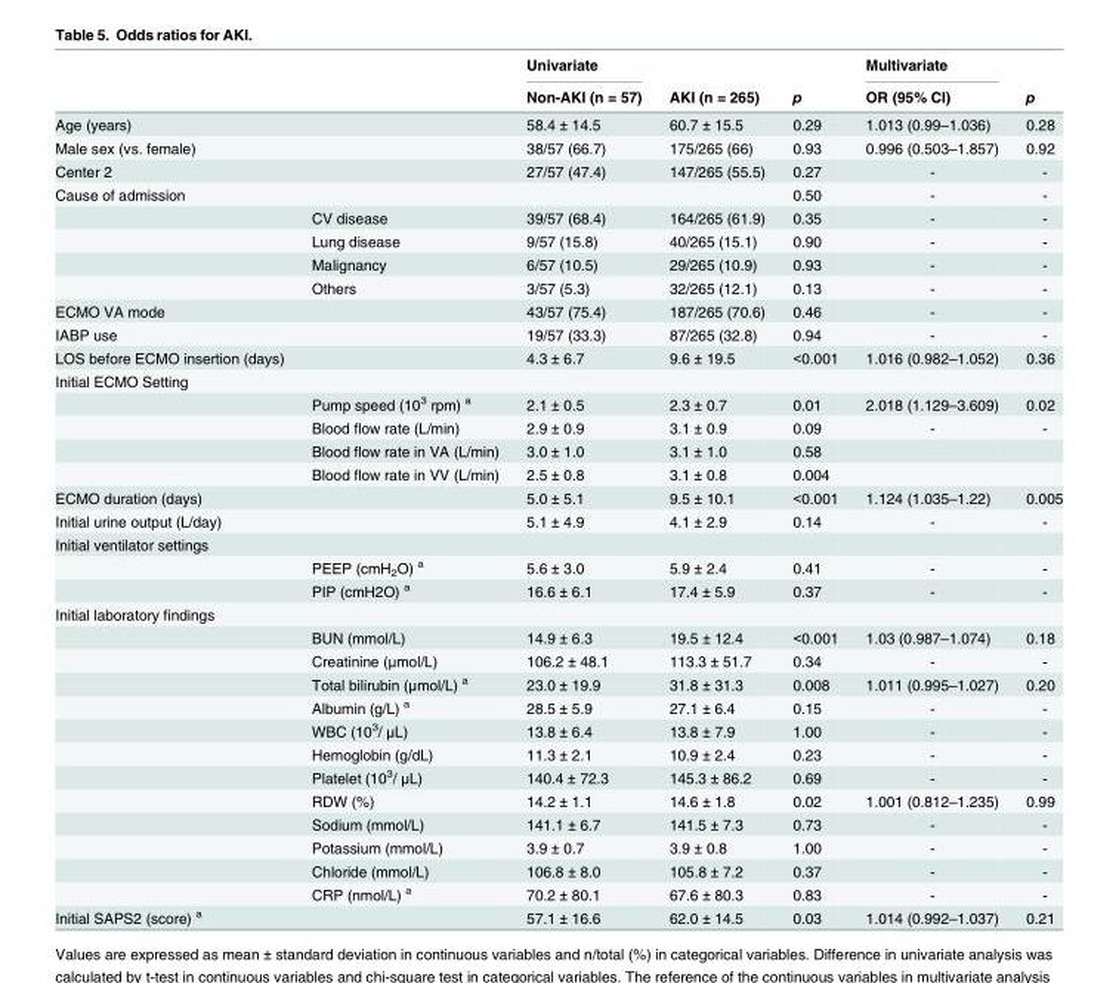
<table><thead><tr><td rowspan="2"></td><td rowspan="2"></td><td rowspan="2">Univariate Non-AKI (n = 57)</td><td rowspan="2">AKI (n = 265)</td><td rowspan="2">p</td><td rowspan="2">Multivariate OR (95% CI)</td><td rowspan="2">p</td></tr><tr></tr></thead><tbody><tr><td>Age (years)</td><td></td><td>58.4 ± 14.5</td><td>60.7 ± 15.5</td><td>0.29</td><td>1.013 (0.99–1.036)</td><td>0.28</td></tr><tr><td>Male sex (vs. female)</td><td></td><td>38/57 (66.7)</td><td>175/265 (66)</td><td>0.93</td><td>0.996 (0.503–1.857)</td><td>0.92</td></tr><tr><td>Center 2</td><td></td><td>27/57 (47.4)</td><td>147/265 (55.5)</td><td>0.27</td><td>-</td><td>-</td></tr><tr><td rowspan="5">Cause of admission</td><td></td><td></td><td></td><td>0.50</td><td>-</td><td>-</td></tr><tr><td>CV disease</td><td>39/57 (68.4)</td><td>164/265 (61.9)</td><td>0.35</td><td>-</td><td>-</td></tr><tr><td>Lung disease</td><td>9/57 (15.8)</td><td>40/265 (15.1)</td><td>0.90</td><td>-</td><td>-</td></tr><tr><td>Malignancy</td><td>6/57 (10.5)</td><td>29/265 (10.9)</td><td>0.93</td><td>-</td><td>-</td></tr><tr><td>Others</td><td>3/57 (5.3)</td><td>32/265 (12.1)</td><td>0.13</td><td>-</td><td>-</td></tr><tr><td>ECMO VA mode</td><td></td><td>43/57 (75.4)</td><td>187/265 (70.6)</td><td>0.46</td><td>-</td><td>-</td></tr><tr><td>IABP use</td><td></td><td>19/57 (33.3)</td><td>87/265 (32.8)</td><td>0.94</td><td>-</td><td>-</td></tr><tr><td>LOS before ECMO insertion (days)</td><td></td><td>4.3 ± 6.7</td><td>9.6 ± 19.5</td><td>&lt;0.001</td><td>1.016 (0.982–1.052)</td><td>0.36</td></tr><tr><td colspan="7">Initial ECMO Setting</td></tr><tr><td></td><td>Pump speed (10<sup>3</sup> rpm) <sup>a</sup></td><td>2.1 ± 0.5</td><td>2.3 ± 0.7</td><td>0.01</td><td>2.018 (1.129–3.609)</td><td>0.02</td></tr><tr><td></td><td>Blood flow rate (L/min)</td><td>2.9 ± 0.9</td><td>3.1 ± 0.9</td><td>0.09</td><td>-</td><td>-</td></tr><tr><td></td><td>Blood flow rate in VA (L/min)</td><td>3.0 ± 1.0</td><td>3.1 ± 1.0</td><td>0.58</td><td></td><td></td></tr><tr><td></td><td>Blood flow rate in VV (L/min)</td><td>2.5 ± 0.8</td><td>3.1 ± 0.8</td><td>0.004</td><td></td><td></td></tr><tr><td>ECMO duration (days)</td><td></td><td>5.0 ± 5.1</td><td>9.5 ± 10.1</td><td>&lt;0.001</td><td>1.124 (1.035–1.22)</td><td>0.005</td></tr><tr><td>Initial urine output (L/day)</td><td></td><td>5.1 ± 4.9</td><td>4.1 ± 2.9</td><td>0.14</td><td>-</td><td>-</td></tr><tr><td colspan="7">Initial ventilator settings</td></tr><tr><td></td><td>PEEP (cmH<sub>2</sub>O) <sup>a</sup></td><td>5.6 ± 3.0</td><td>5.9 ± 2.4</td><td>0.41</td><td>-</td><td>-</td></tr><tr><td></td><td>PIP (cmH2O) <sup>a</sup></td><td>16.6 ± 6.1</td><td>17.4 ± 5.9</td><td>0.37</td><td>-</td><td>-</td></tr><tr><td colspan="7">Initial laboratory findings</td></tr><tr><td></td><td>BUN (mmol/L)</td><td>14.9 ± 6.3</td><td>19.5 ± 12.4</td><td>&lt;0.001</td><td>1.03 (0.987–1.074)</td><td>0.18</td></tr><tr><td></td><td>Creatinine (μmol/L)</td><td>106.2 ± 48.1</td><td>113.3 ± 51.7</td><td>0.34</td><td>-</td><td>-</td></tr><tr><td></td><td>Total bilirubin (μmol/L) <sup>a</sup></td><td>23.0 ± 19.9</td><td>31.8 ± 31.3</td><td>0.008</td><td>1.011 (0.995–1.027)</td><td>0.20</td></tr><tr><td></td><td>Albumin (g/L) <sup>a</sup></td><td>28.5 ± 5.9</td><td>27.1 ± 6.4</td><td>0.15</td><td>-</td><td>-</td></tr><tr><td></td><td>WBC (10<sup>3</sup>/ μL)</td><td>13.8 ± 6.4</td><td>13.8 ± 7.9</td><td>1.00</td><td>-</td><td>-</td></tr><tr><td></td><td>Hemoglobin (g/dL)</td><td>11.3 ± 2.1</td><td>10.9 ± 2.4</td><td>0.23</td><td>-</td><td>-</td></tr><tr><td></td><td>Platelet (10<sup>3</sup>/ μL)</td><td>140.4 ± 72.3</td><td>145.3 ± 86.2</td><td>0.69</td><td>-</td><td>-</td></tr><tr><td></td><td>RDW (%)</td><td>14.2 ± 1.1</td><td>14.6 ± 1.8</td><td>0.02</td><td>1.001 (0.812–1.235)</td><td>0.99</td></tr><tr><td></td><td>Sodium (mmol/L)</td><td>141.1 ± 6.7</td><td>141.5 ± 7.3</td><td>0.73</td><td>-</td><td>-</td></tr><tr><td></td><td>Potassium (mmol/L)</td><td>3.9 ± 0.7</td><td>3.9 ± 0.8</td><td>1.00</td><td>-</td><td>-</td></tr><tr><td></td><td>Chloride (mmol/L)</td><td>106.8 ± 8.0</td><td>105.8 ± 7.2</td><td>0.37</td><td>-</td><td>-</td></tr><tr><td></td><td>CRP (nmol/L) <sup>a</sup></td><td>70.2 ± 80.1</td><td>67.6 ± 80.3</td><td>0.83</td><td>-</td><td>-</td></tr><tr><td>Initial SAPS2 (score) <sup>a</sup></td><td></td><td>57.1 ± 16.6</td><td>62.0 ± 14.5</td><td>0.03</td><td>1.014 (0.992–1.037)</td><td>0.21</td></tr></tbody></table>